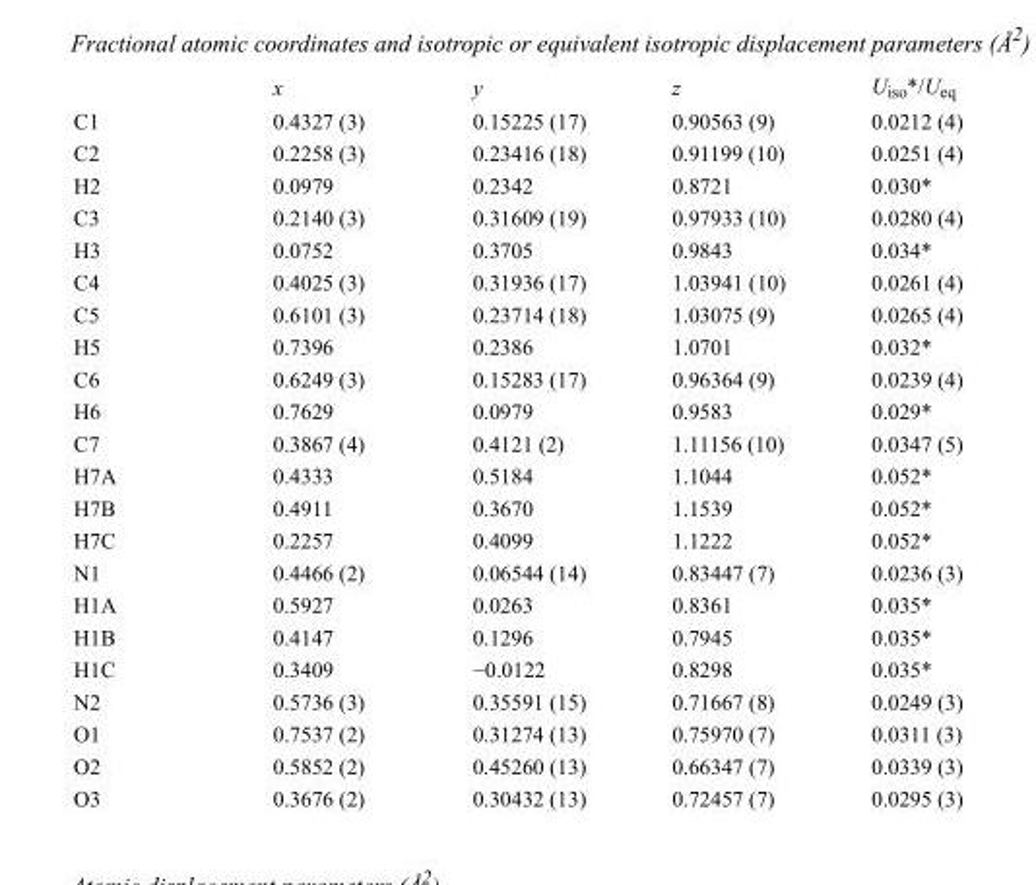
<table><thead><tr><td></td><td>x</td><td>y</td><td>z</td><td>U<sub>iso</sub>*/U<sub>eq</sub></td></tr></thead><tbody><tr><td>C1</td><td>0.4327 (3)</td><td>0.15225 (17)</td><td>0.90563 (9)</td><td>0.0212 (4)</td></tr><tr><td>C2</td><td>0.2258 (3)</td><td>0.23416 (18)</td><td>0.91199 (10)</td><td>0.0251 (4)</td></tr><tr><td>H2</td><td>0.0979</td><td>0.2342</td><td>0.8721</td><td>0.030*</td></tr><tr><td>C3</td><td>0.2140 (3)</td><td>0.31609 (19)</td><td>0.97933 (10)</td><td>0.0280 (4)</td></tr><tr><td>H3</td><td>0.0752</td><td>0.3705</td><td>0.9843</td><td>0.034*</td></tr><tr><td>C4</td><td>0.4025 (3)</td><td>0.31936 (17)</td><td>1.03941 (10)</td><td>0.0261 (4)</td></tr><tr><td>C5</td><td>0.6101 (3)</td><td>0.23714 (18)</td><td>1.03075 (9)</td><td>0.0265 (4)</td></tr><tr><td>H5</td><td>0.7396</td><td>0.2386</td><td>1.0701</td><td>0.032*</td></tr><tr><td>C6</td><td>0.6249 (3)</td><td>0.15283 (17)</td><td>0.96364 (9)</td><td>0.0239 (4)</td></tr><tr><td>H6</td><td>0.7629</td><td>0.0979</td><td>0.9583</td><td>0.029*</td></tr><tr><td>C7</td><td>0.3867 (4)</td><td>0.4121 (2)</td><td>1.11156 (10)</td><td>0.0347 (5)</td></tr><tr><td>H7A</td><td>0.4333</td><td>0.5184</td><td>1.1044</td><td>0.052*</td></tr><tr><td>H7B</td><td>0.4911</td><td>0.3670</td><td>1.1539</td><td>0.052*</td></tr><tr><td>H7C</td><td>0.2257</td><td>0.4099</td><td>1.1222</td><td>0.052*</td></tr><tr><td>N1</td><td>0.4466 (2)</td><td>0.06544 (14)</td><td>0.83447 (7)</td><td>0.0236 (3)</td></tr><tr><td>H1A</td><td>0.5927</td><td>0.0263</td><td>0.8361</td><td>0.035*</td></tr><tr><td>H1B</td><td>0.4147</td><td>0.1296</td><td>0.7945</td><td>0.035*</td></tr><tr><td>H1C</td><td>0.3409</td><td>−0.0122</td><td>0.8298</td><td>0.035*</td></tr><tr><td>N2</td><td>0.5736 (3)</td><td>0.35591 (15)</td><td>0.71667 (8)</td><td>0.0249 (3)</td></tr><tr><td>O1</td><td>0.7537 (2)</td><td>0.31274 (13)</td><td>0.75970 (7)</td><td>0.0311 (3)</td></tr><tr><td>O2</td><td>0.5852 (2)</td><td>0.45260 (13)</td><td>0.66347 (7)</td><td>0.0339 (3)</td></tr><tr><td>O3</td><td>0.3676 (2)</td><td>0.30432 (13)</td><td>0.72457 (7)</td><td>0.0295 (3)</td></tr></tbody></table>